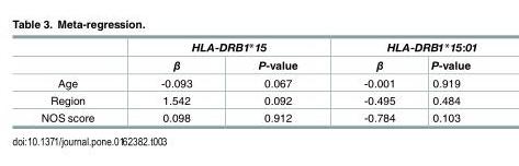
<table><thead><tr><td rowspan="2"></td><td colspan="2">HLA-DRB1*15</td><td colspan="2">HLA-DRB1*15:01</td></tr><tr><td>β</td><td>P-value</td><td>β</td><td>P-value</td></tr></thead><tbody><tr><td>Age</td><td>-0.093</td><td>0.067</td><td>-0.001</td><td>0.919</td></tr><tr><td>Region</td><td>1.542</td><td>0.092</td><td>-0.495</td><td>0.484</td></tr><tr><td>NOS score</td><td>0.098</td><td>0.912</td><td>-0.784</td><td>0.103</td></tr></tbody></table>